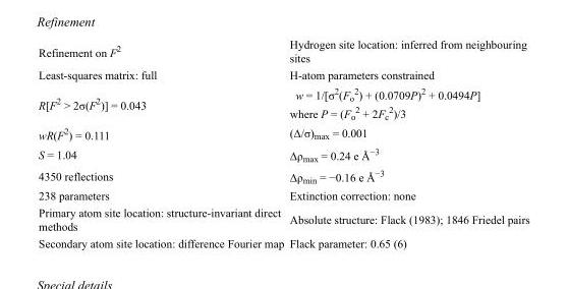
<table><tbody><tr><td>Refinement on F<sup>2</sup></td><td>Hydrogen site location: inferred from neighbouring sites</td></tr><tr><td>Least-squares matrix: full</td><td>H-atom parameters constrained</td></tr><tr><td>R[F<sup>2</sup> &gt; 2σ(F<sup>2</sup>)] = 0.043</td><td>w = 1/[σ<sup>2</sup>(F<sub>o</sub> <sup>2</sup>) + (0.0709P)<sup>2</sup> + 0.0494P] where P = (F<sub>o</sub> <sup>2</sup> + 2F<sub>c</sub> <sup>2</sup>)/3</td></tr><tr><td>wR(F<sup>2</sup>) = 0.111</td><td>(Δ/σ)<sub>max</sub> = 0.001</td></tr><tr><td>S = 1.04</td><td>Δρ<sub>max</sub> = 0.24 e Å<sup>−3</sup></td></tr><tr><td>4350 reflections</td><td>Δρ<sub>min</sub> = −0.16 e Å<sup>−3</sup></td></tr><tr><td>238 parameters</td><td>Extinction correction: none</td></tr><tr><td>Primary atom site location: structure-invariant direct methods</td><td>Absolute structure: Flack (1983); 1846 Friedel pairs</td></tr><tr><td>Secondary atom site location: difference Fourier map</td><td>Flack parameter: 0.65 (6)</td></tr></tbody></table>